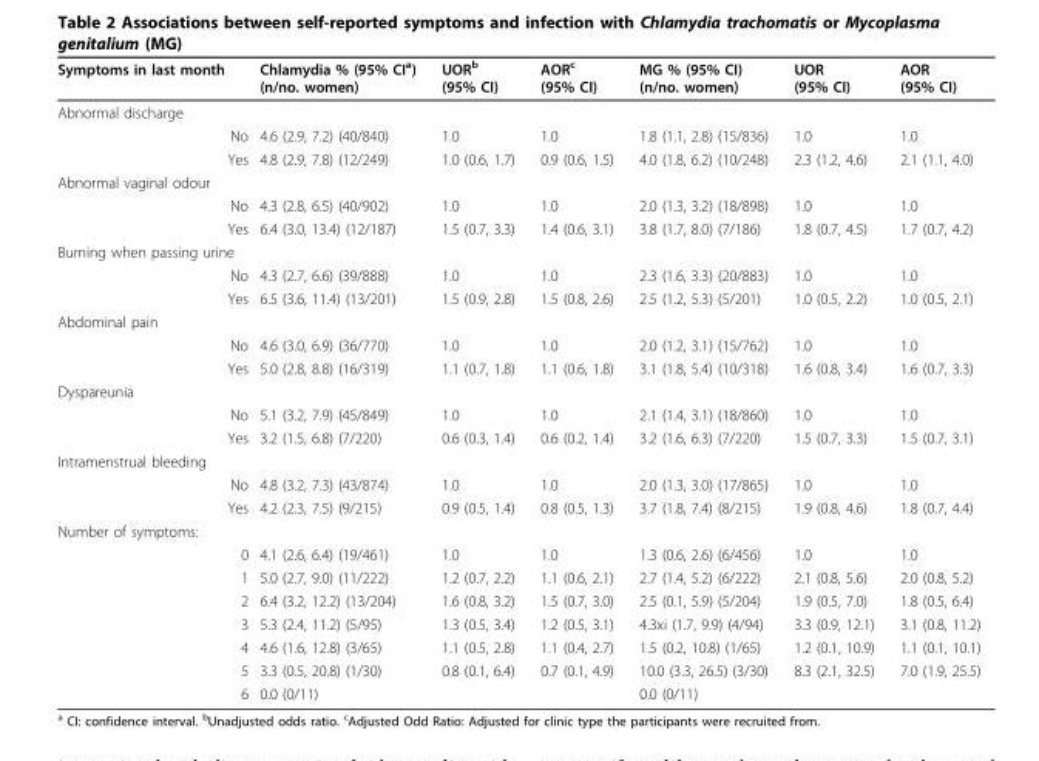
<table><thead><tr><td>Symptoms in last month</td><td>Chlamydia % (95% CI<sup>a</sup>) (n/no. women)</td><td>UOR<sup>b</sup> (95% CI)</td><td>AOR<sup>c</sup> (95% CI)</td><td>MG % (95% CI) (n/no. women)</td><td>UOR (95% CI)</td><td>AOR (95% CI)</td></tr></thead><tbody><tr><td colspan="7">Abnormal discharge</td></tr><tr><td>No</td><td>4.6 (2.9, 7.2) (40/840)</td><td>1.0</td><td>1.0</td><td>1.8 (1.1, 2.8) (15/836)</td><td>1.0</td><td>1.0</td></tr><tr><td>Yes</td><td>4.8 (2.9, 7.8) (12/249)</td><td>1.0 (0.6, 1.7)</td><td>0.9 (0.6, 1.5)</td><td>4.0 (1.8, 6.2) (10/248)</td><td>2.3 (1.2, 4.6)</td><td>2.1 (1.1, 4.0)</td></tr><tr><td colspan="7">Abnormal vaginal odour</td></tr><tr><td>No</td><td>4.3 (2.8, 6.5) (40/902)</td><td>1.0</td><td>1.0</td><td>2.0 (1.3, 3.2) (18/898)</td><td>1.0</td><td>1.0</td></tr><tr><td>Yes</td><td>6.4 (3.0, 13.4) (12/187)</td><td>1.5 (0.7, 3.3)</td><td>1.4 (0.6, 3.1)</td><td>3.8 (1.7, 8.0) (7/186)</td><td>1.8 (0.7, 4.5)</td><td>1.7 (0.7, 4.2)</td></tr><tr><td colspan="7">Burning when passing urine</td></tr><tr><td>No</td><td>4.3 (2.7, 6.6) (39/888)</td><td>1.0</td><td>1.0</td><td>2.3 (1.6, 3.3) (20/883)</td><td>1.0</td><td>1.0</td></tr><tr><td>Yes</td><td>6.5 (3.6, 11.4) (13/201)</td><td>1.5 (0.9, 2.8)</td><td>1.5 (0.8, 2.6)</td><td>2.5 (1.2, 5.3) (5/201)</td><td>1.0 (0.5, 2.2)</td><td>1.0 (0.5, 2.1)</td></tr><tr><td colspan="7">Abdominal pain</td></tr><tr><td>No</td><td>4.6 (3.0, 6.9) (36/770)</td><td>1.0</td><td>1.0</td><td>2.0 (1.2, 3.1) (15/762)</td><td>1.0</td><td>1.0</td></tr><tr><td>Yes</td><td>5.0 (2.8, 8.8) (16/319)</td><td>1.1 (0.7, 1.8)</td><td>1.1 (0.6, 1.8)</td><td>3.1 (1.8, 5.4) (10/318)</td><td>1.6 (0.8, 3.4)</td><td>1.6 (0.7, 3.3)</td></tr><tr><td colspan="7">Dyspareunia</td></tr><tr><td>No</td><td>5.1 (3.2, 7.9) (45/849)</td><td>1.0</td><td>1.0</td><td>2.1 (1.4, 3.1) (18/860)</td><td>1.0</td><td>1.0</td></tr><tr><td>Yes</td><td>3.2 (1.5, 6.8) (7/220)</td><td>0.6 (0.3, 1.4)</td><td>0.6 (0.2, 1.4)</td><td>3.2 (1.6, 6.3) (7/220)</td><td>1.5 (0.7, 3.3)</td><td>1.5 (0.7, 3.1)</td></tr><tr><td colspan="7">Intramenstrual bleeding</td></tr><tr><td>No</td><td>4.8 (3.2, 7.3) (43/874)</td><td>1.0</td><td>1.0</td><td>2.0 (1.3, 3.0) (17/865)</td><td>1.0</td><td>1.0</td></tr><tr><td>Yes</td><td>4.2 (2.3, 7.5) (9/215)</td><td>0.9 (0.5, 1.4)</td><td>0.8 (0.5, 1.3)</td><td>3.7 (1.8, 7.4) (8/215)</td><td>1.9 (0.8, 4.6)</td><td>1.8 (0.7, 4.4)</td></tr><tr><td colspan="7">Number of symptoms:</td></tr><tr><td>0</td><td>4.1 (2.6, 6.4) (19/461)</td><td>1.0</td><td>1.0</td><td>1.3 (0.6, 2.6) (6/456)</td><td>1.0</td><td>1.0</td></tr><tr><td>1</td><td>5.0 (2.7, 9.0) (11/222)</td><td>1.2 (0.7, 2.2)</td><td>1.1 (0.6, 2.1)</td><td>2.7 (1.4, 5.2) (6/222)</td><td>2.1 (0.8, 5.6)</td><td>2.0 (0.8, 5.2)</td></tr><tr><td>2</td><td>6.4 (3.2, 12.2) (13/204)</td><td>1.6 (0.8, 3.2)</td><td>1.5 (0.7, 3.0)</td><td>2.5 (0.1, 5.9) (5/204)</td><td>1.9 (0.5, 7.0)</td><td>1.8 (0.5, 6.4)</td></tr><tr><td>3</td><td>5.3 (2.4, 11.2) (5/95)</td><td>1.3 (0.5, 3.4)</td><td>1.2 (0.5, 3.1)</td><td>4.3xi (1.7, 9.9) (4/94)</td><td>3.3 (0.9, 12.1)</td><td>3.1 (0.8, 11.2)</td></tr><tr><td>4</td><td>4.6 (1.6, 12.8) (3/65)</td><td>1.1 (0.5, 2.8)</td><td>1.1 (0.4, 2.7)</td><td>1.5 (0.2, 10.8) (1/65)</td><td>1.2 (0.1, 10.9)</td><td>1.1 (0.1, 10.1)</td></tr><tr><td>5</td><td>3.3 (0.5, 20.8) (1/30)</td><td>0.8 (0.1, 6.4)</td><td>0.7 (0.1, 4.9)</td><td>10.0 (3.3, 26.5) (3/30)</td><td>8.3 (2.1, 32.5)</td><td>7.0 (1.9, 25.5)</td></tr><tr><td>6</td><td>0.0 (0/11)</td><td></td><td></td><td>0.0 (0/11)</td><td></td><td></td></tr></tbody></table>